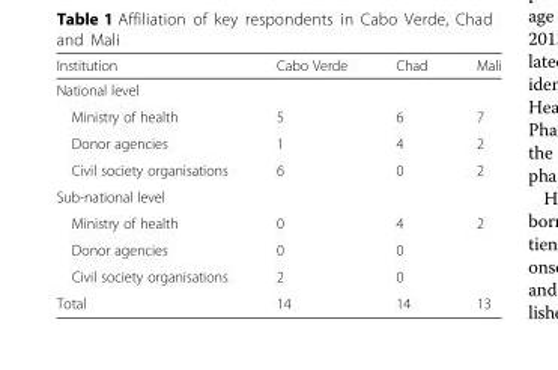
<table><thead><tr><td>Institution</td><td>Cabo Verde</td><td>Chad</td><td>Mali</td></tr></thead><tbody><tr><td colspan="4">National level</td></tr><tr><td>Ministry of health</td><td>5</td><td>6</td><td>7</td></tr><tr><td>Donor agencies</td><td>1</td><td>4</td><td>2</td></tr><tr><td>Civil society organisations</td><td>6</td><td>0</td><td>2</td></tr><tr><td colspan="4">Sub-national level</td></tr><tr><td>Ministry of health</td><td>0</td><td>4</td><td>2</td></tr><tr><td>Donor agencies</td><td>0</td><td>0</td><td></td></tr><tr><td>Civil society organisations</td><td>2</td><td>0</td><td></td></tr><tr><td>Total</td><td>14</td><td>14</td><td>13</td></tr></tbody></table>